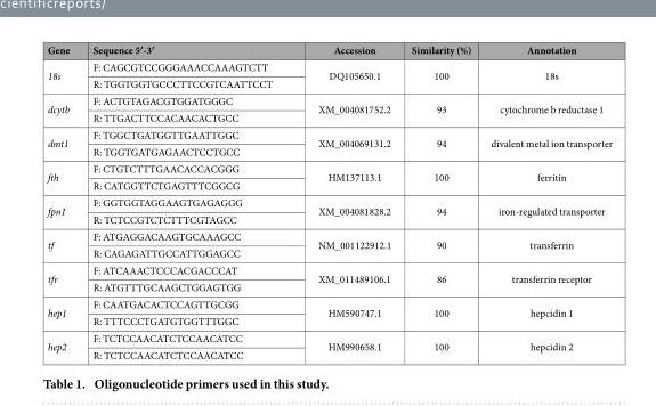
<table><thead><tr><td>Gene</td><td>Sequence 5′-3′</td><td>Accession</td><td>Similarity (%)</td><td>Annotation</td></tr></thead><tbody><tr><td rowspan="2">18s</td><td>F: CAGCGTCCGGGAAACCAAAGTCTT</td><td rowspan="2">DQ105650.1</td><td rowspan="2">100</td><td rowspan="2">18s</td></tr><tr><td>R: TGGTGGTGCCCTTCCGTCAATTCCT</td></tr><tr><td rowspan="2">dcytb</td><td>F: ACTGTAGACGTGGATGGGC</td><td rowspan="2">XM_004081752.2</td><td rowspan="2">93</td><td rowspan="2">cytochrome b reductase 1</td></tr><tr><td>R: TTGACTTCCACAACACTGCC</td></tr><tr><td rowspan="2">dmt1</td><td>F: TGGCTGATGGTTGAATTGGC</td><td rowspan="2">XM_004069131.2</td><td rowspan="2">94</td><td rowspan="2">divalent metal ion transporter</td></tr><tr><td>R: TGGTGATGAGAACTCCTGCC</td></tr><tr><td rowspan="2">fth</td><td>F: CTGTCTTTGAACACCACGGG</td><td rowspan="2">HM137113.1</td><td rowspan="2">100</td><td rowspan="2">ferritin</td></tr><tr><td>R: CATGGTTCTGAGTTTCGGCG</td></tr><tr><td rowspan="2">fpn1</td><td>F: GGTGGTAGGAAGTGAGAGGG</td><td rowspan="2">XM_004081828.2</td><td rowspan="2">94</td><td rowspan="2">iron-regulated transporter</td></tr><tr><td>R: TCTCCGTCTCTTTCGTAGCC</td></tr><tr><td rowspan="2">tf</td><td>F: ATGAGGACAAGTGCAAAGCC</td><td rowspan="2">NM_001122912.1</td><td rowspan="2">90</td><td rowspan="2">transferrin</td></tr><tr><td>R: CAGAGATTGCCATTGGAGCC</td></tr><tr><td rowspan="2">tfr</td><td>F: ATCAAACTCCCACGACCCAT</td><td rowspan="2">XM_011489106.1</td><td rowspan="2">86</td><td rowspan="2">transferrin receptor</td></tr><tr><td>R: ATGTTTGCAAGCTGGAGTGG</td></tr><tr><td rowspan="2">hep1</td><td>F: CAATGACACTCCAGTTGCGG</td><td rowspan="2">HM590747.1</td><td rowspan="2">100</td><td rowspan="2">hepcidin 1</td></tr><tr><td>R: TTTCCCTGATGTGGTTTGGC</td></tr><tr><td rowspan="2">hep2</td><td>F: TCTCCAACATCTCCAACATCC</td><td rowspan="2">HM990658.1</td><td rowspan="2">100</td><td rowspan="2">hepcidin 2</td></tr><tr><td>R: TCTCCAACATCTCCAACATCC</td></tr></tbody></table>